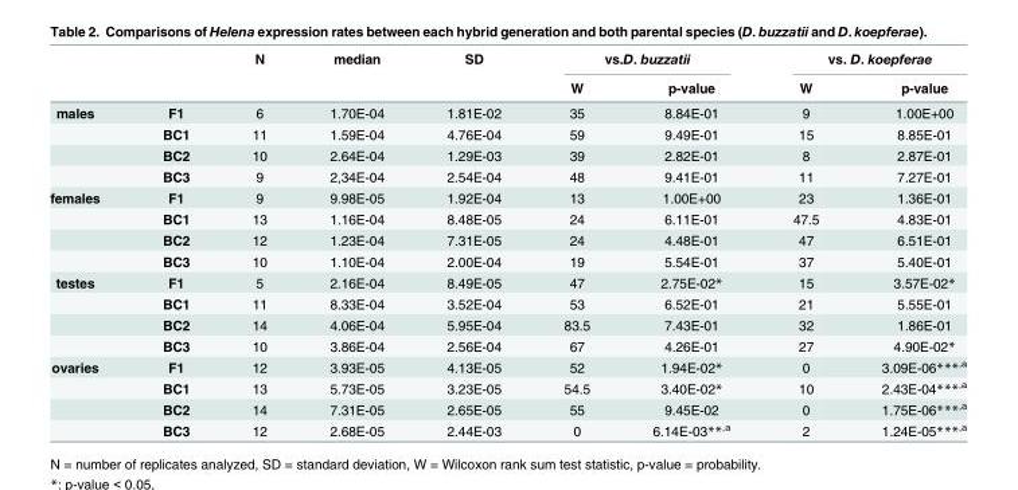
<table><thead><tr><td rowspan="2"></td><td rowspan="2"></td><td rowspan="2">N</td><td rowspan="2">median</td><td rowspan="2">SD</td><td colspan="2">vs.D. buzzatii</td><td colspan="2">vs. D. koepferae</td></tr><tr><td>W</td><td>p-value</td><td>W</td><td>p-value</td></tr></thead><tbody><tr><td rowspan="4">males</td><td>F1</td><td>6</td><td>1.70E-04</td><td>1.81E-02</td><td>35</td><td>8.84E-01</td><td>9</td><td>1.00E+00</td></tr><tr><td>BC1</td><td>11</td><td>1.59E-04</td><td>4.76E-04</td><td>59</td><td>9.49E-01</td><td>15</td><td>8.85E-01</td></tr><tr><td>BC2</td><td>10</td><td>2.64E-04</td><td>1.29E-03</td><td>39</td><td>2.82E-01</td><td>8</td><td>2.87E-01</td></tr><tr><td>BC3</td><td>9</td><td>2,34E-04</td><td>2.54E-04</td><td>48</td><td>9.41E-01</td><td>11</td><td>7.27E-01</td></tr><tr><td rowspan="4">females</td><td>F1</td><td>9</td><td>9.98E-05</td><td>1.92E-04</td><td>13</td><td>1.00E+00</td><td>23</td><td>1.36E-01</td></tr><tr><td>BC1</td><td>13</td><td>1.16E-04</td><td>8.48E-05</td><td>24</td><td>6.11E-01</td><td>47.5</td><td>4.83E-01</td></tr><tr><td>BC2</td><td>12</td><td>1.23E-04</td><td>7.31E-05</td><td>24</td><td>4.48E-01</td><td>47</td><td>6.51E-01</td></tr><tr><td>BC3</td><td>10</td><td>1.10E-04</td><td>2.00E-04</td><td>19</td><td>5.54E-01</td><td>37</td><td>5.40E-01</td></tr><tr><td rowspan="4">testes</td><td>F1</td><td>5</td><td>2.16E-04</td><td>8.49E-05</td><td>47</td><td>2.75E-02*</td><td>15</td><td>3.57E-02*</td></tr><tr><td>BC1</td><td>11</td><td>8.33E-04</td><td>3.52E-04</td><td>53</td><td>6.52E-01</td><td>21</td><td>5.55E-01</td></tr><tr><td>BC2</td><td>14</td><td>4.06E-04</td><td>5.95E-04</td><td>83.5</td><td>7.43E-01</td><td>32</td><td>1.86E-01</td></tr><tr><td>BC3</td><td>10</td><td>3.86E-04</td><td>2.56E-04</td><td>67</td><td>4.26E-01</td><td>27</td><td>4.90E-02*</td></tr><tr><td rowspan="4">ovaries</td><td>F1</td><td>12</td><td>3.93E-05</td><td>4.13E-05</td><td>52</td><td>1.94E-02*</td><td>0</td><td>3.09E-06***<sup>,a</sup></td></tr><tr><td>BC1</td><td>13</td><td>5.73E-05</td><td>3.23E-05</td><td>54.5</td><td>3.40E-02*</td><td>10</td><td>2.43E-04***<sup>,a</sup></td></tr><tr><td>BC2</td><td>14</td><td>7.31E-05</td><td>2.65E-05</td><td>55</td><td>9.45E-02</td><td>0</td><td>1.75E-06***<sup>,a</sup></td></tr><tr><td>BC3</td><td>12</td><td>2.68E-05</td><td>2.44E-03</td><td>0</td><td>6.14E-03**<sup>,a</sup></td><td>2</td><td>1.24E-05***<sup>,a</sup></td></tr></tbody></table>